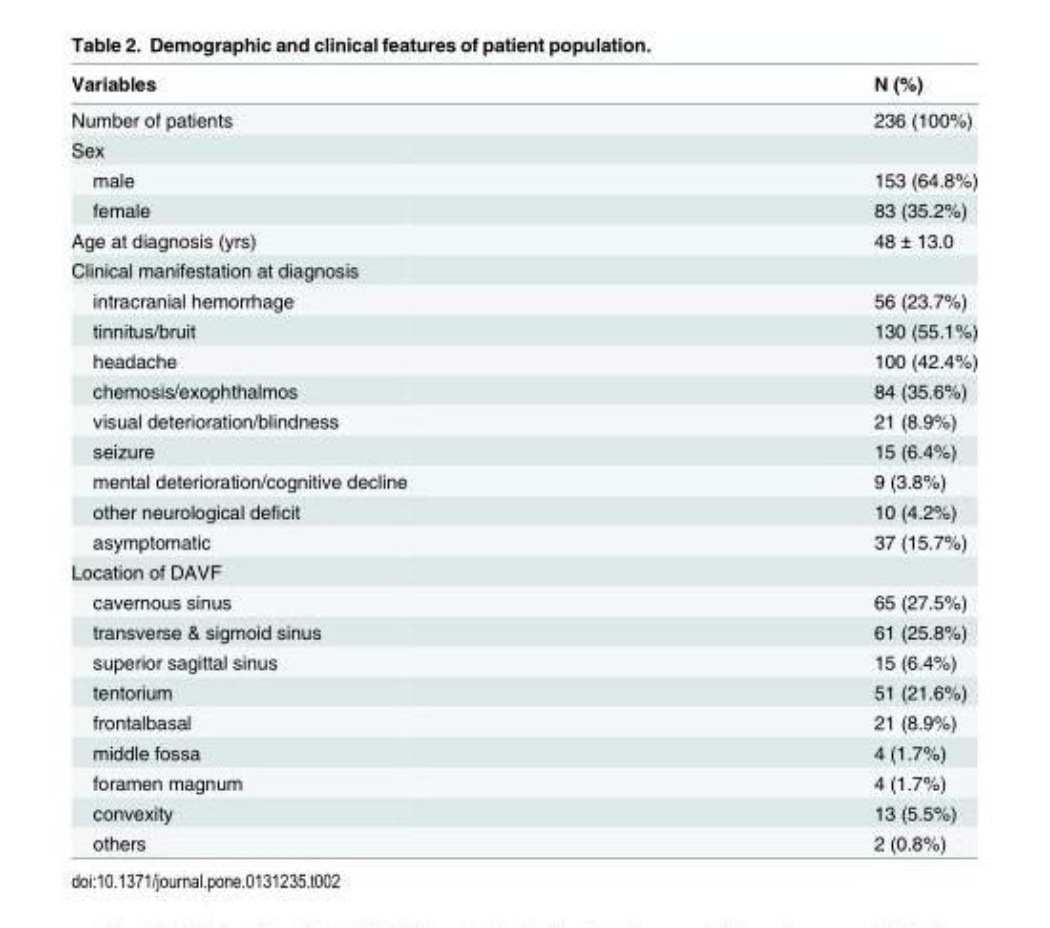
<table><thead><tr><td>Variables</td><td>N (%)</td></tr></thead><tbody><tr><td>Number of patients</td><td>236 (100%)</td></tr><tr><td colspan="2">Sex</td></tr><tr><td>male</td><td>153 (64.8%)</td></tr><tr><td>female</td><td>83 (35.2%)</td></tr><tr><td>Age at diagnosis (yrs)</td><td>48 ± 13.0</td></tr><tr><td colspan="2">Clinical manifestation at diagnosis</td></tr><tr><td>intracranial hemorrhage</td><td>56 (23.7%)</td></tr><tr><td>tinnitus/bruit</td><td>130 (55.1%)</td></tr><tr><td>headache</td><td>100 (42.4%)</td></tr><tr><td>chemosis/exophthalmos</td><td>84 (35.6%)</td></tr><tr><td>visual deterioration/blindness</td><td>21 (8.9%)</td></tr><tr><td>seizure</td><td>15 (6.4%)</td></tr><tr><td>mental deterioration/cognitive decline</td><td>9 (3.8%)</td></tr><tr><td>other neurological deficit</td><td>10 (4.2%)</td></tr><tr><td>asymptomatic</td><td>37 (15.7%)</td></tr><tr><td colspan="2">Location of DAVF</td></tr><tr><td>cavernous sinus</td><td>65 (27.5%)</td></tr><tr><td>transverse &amp; sigmoid sinus</td><td>61 (25.8%)</td></tr><tr><td>superior sagittal sinus</td><td>15 (6.4%)</td></tr><tr><td>tentorium</td><td>51 (21.6%)</td></tr><tr><td>frontalbasal</td><td>21 (8.9%)</td></tr><tr><td>middle fossa</td><td>4 (1.7%)</td></tr><tr><td>foramen magnum</td><td>4 (1.7%)</td></tr><tr><td>convexity</td><td>13 (5.5%)</td></tr><tr><td>others</td><td>2 (0.8%)</td></tr></tbody></table>